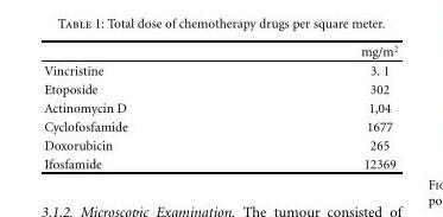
<table><thead><tr><td></td><td>mg/m<sup>2</sup></td></tr></thead><tbody><tr><td>Vincristine</td><td>3. 1</td></tr><tr><td>Etoposide</td><td>302</td></tr><tr><td>Actinomycin D</td><td>1,04</td></tr><tr><td>Cyclofosfamide</td><td>1677</td></tr><tr><td>Doxorubicin</td><td>265</td></tr><tr><td>Ifosfamide</td><td>12369</td></tr></tbody></table>